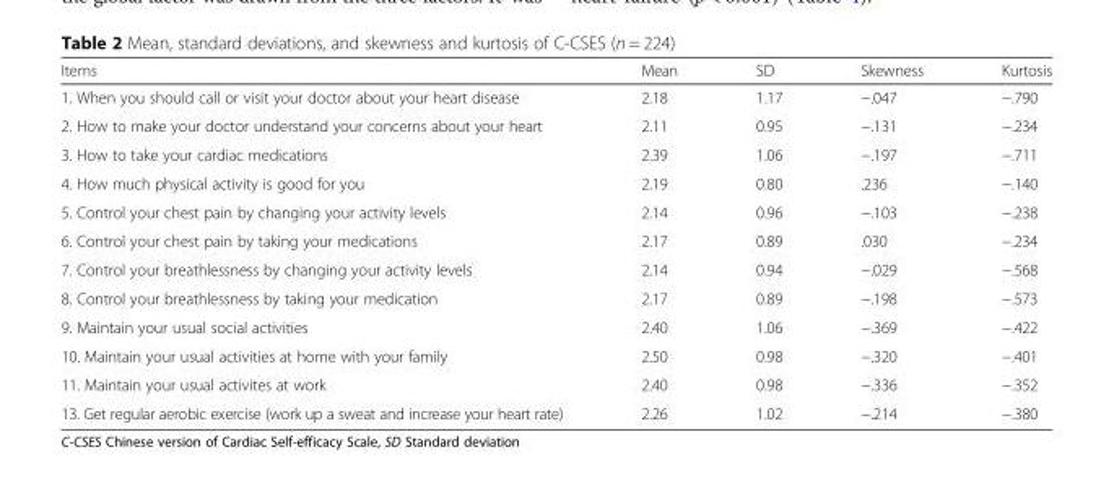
<table><thead><tr><td>Items</td><td>Mean</td><td>SD</td><td>Skewness</td><td>Kurtosis</td></tr></thead><tbody><tr><td>1. When you should call or visit your doctor about your heart disease</td><td>2.18</td><td>1.17</td><td>−.047</td><td>−.790</td></tr><tr><td>2. How to make your doctor understand your concerns about your heart</td><td>2.11</td><td>0.95</td><td>−.131</td><td>−.234</td></tr><tr><td>3. How to take your cardiac medications</td><td>2.39</td><td>1.06</td><td>−.197</td><td>−.711</td></tr><tr><td>4. How much physical activity is good for you</td><td>2.19</td><td>0.80</td><td>.236</td><td>−.140</td></tr><tr><td>5. Control your chest pain by changing your activity levels</td><td>2.14</td><td>0.96</td><td>−.103</td><td>−.238</td></tr><tr><td>6. Control your chest pain by taking your medications</td><td>2.17</td><td>0.89</td><td>.030</td><td>−.234</td></tr><tr><td>7. Control your breathlessness by changing your activity levels</td><td>2.14</td><td>0.94</td><td>−.029</td><td>−.568</td></tr><tr><td>8. Control your breathlessness by taking your medication</td><td>2.17</td><td>0.89</td><td>−.198</td><td>−.573</td></tr><tr><td>9. Maintain your usual social activities</td><td>2.40</td><td>1.06</td><td>−.369</td><td>−.422</td></tr><tr><td>10. Maintain your usual activities at home with your family</td><td>2.50</td><td>0.98</td><td>−.320</td><td>−.401</td></tr><tr><td>11. Maintain your usual activites at work</td><td>2.40</td><td>0.98</td><td>−.336</td><td>−.352</td></tr><tr><td>13. Get regular aerobic exercise (work up a sweat and increase your heart rate)</td><td>2.26</td><td>1.02</td><td>−.214</td><td>−.380</td></tr></tbody></table>